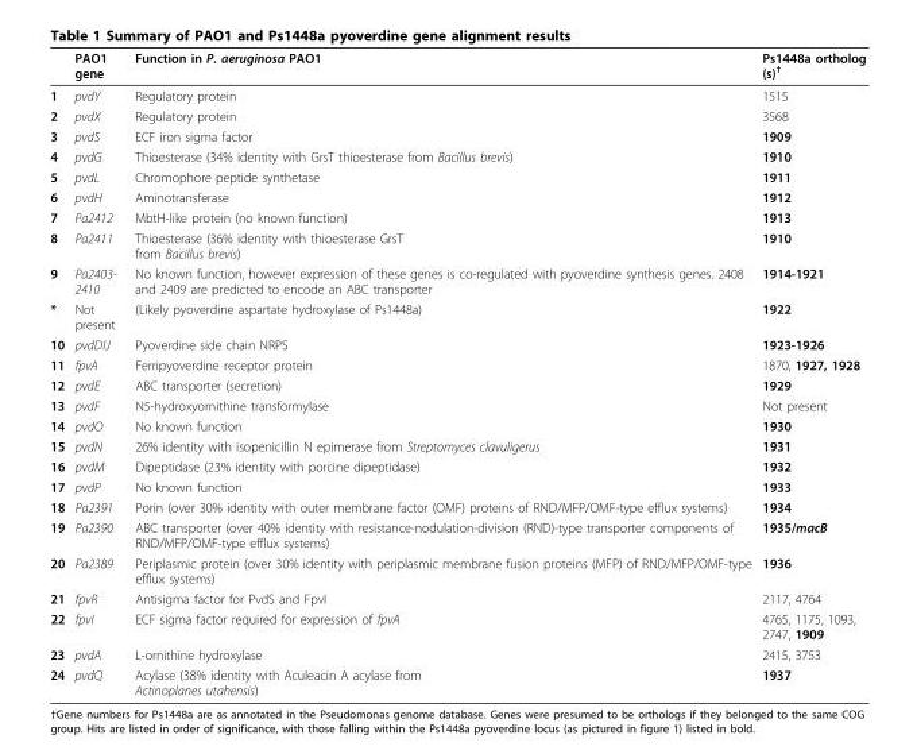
<table><thead><tr><td></td><td>PAO1 gene</td><td>Function in P. aeruginosa PAO1</td><td>Ps1448a ortholog (s)<sup>†</sup></td></tr></thead><tbody><tr><td>1</td><td>pvdY</td><td>Regulatory protein</td><td>1515</td></tr><tr><td>2</td><td>pvdX</td><td>Regulatory protein</td><td>3568</td></tr><tr><td>3</td><td>pvdS</td><td>ECF iron sigma factor</td><td>1909</td></tr><tr><td>4</td><td>pvdG</td><td>Thioesterase (34% identity with GrsT thioesterase from Bacillus brevis)</td><td>1910</td></tr><tr><td>5</td><td>pvdL</td><td>Chromophore peptide synthetase</td><td>1911</td></tr><tr><td>6</td><td>pvdH</td><td>Aminotransferase</td><td>1912</td></tr><tr><td>7</td><td>Pa2412</td><td>MbtH-like protein (no known function)</td><td>1913</td></tr><tr><td>8</td><td>Pa2411</td><td>Thioesterase (36% identity with thioesterase GrsT from Bacillus brevis)</td><td>1910</td></tr><tr><td>9</td><td>Pa2403- 2410</td><td>No known function, however expression of these genes is co-regulated with pyoverdine synthesis genes. 2408 and 2409 are predicted to encode an ABC transporter</td><td>1914-1921</td></tr><tr><td>*</td><td>Not present</td><td>(Likely pyoverdine aspartate hydroxylase of Ps1448a)</td><td>1922</td></tr><tr><td>10</td><td>pvdDIJ</td><td>Pyoverdine side chain NRPS</td><td>1923-1926</td></tr><tr><td>11</td><td>fpvA</td><td>Ferripyoverdine receptor protein</td><td>1870, 1927, 1928</td></tr><tr><td>12</td><td>pvdE</td><td>ABC transporter (secretion)</td><td>1929</td></tr><tr><td>13</td><td>pvdF</td><td>N5-hydroxyornithine transformylase</td><td>Not present</td></tr><tr><td>14</td><td>pvdO</td><td>No known function</td><td>1930</td></tr><tr><td>15</td><td>pvdN</td><td>26% identity with isopenicillin N epimerase from Streptomyces clavuligerus</td><td>1931</td></tr><tr><td>16</td><td>pvdM</td><td>Dipeptidase (23% identity with porcine dipeptidase)</td><td>1932</td></tr><tr><td>17</td><td>pvdP</td><td>No known function</td><td>1933</td></tr><tr><td>18</td><td>Pa2391</td><td>Porin (over 30% identity with outer membrane factor (OMF) proteins of RND/MFP/OMF-type efflux systems)</td><td>1934</td></tr><tr><td>19</td><td>Pa2390</td><td>ABC transporter (over 40% identity with resistance-nodulation-division (RND)-type transporter components of RND/MFP/OMF-type efflux systems)</td><td>1935/macB</td></tr><tr><td>20</td><td>Pa2389</td><td>Periplasmic protein (over 30% identity with periplasmic membrane fusion proteins (MFP) of RND/MFP/OMF-type efflux systems)</td><td>1936</td></tr><tr><td>21</td><td>fpvR</td><td>Antisigma factor for PvdS and FpvI</td><td>2117, 4764</td></tr><tr><td>22</td><td>fpvI</td><td>ECF sigma factor required for expression of fpvA</td><td>4765, 1175, 1093, 2747, 1909</td></tr><tr><td>23</td><td>pvdA</td><td>L-ornithine hydroxylase</td><td>2415, 3753</td></tr><tr><td>24</td><td>pvdQ</td><td>Acylase (38% identity with Aculeacin A acylase from Actinoplanes utahensis)</td><td>1937</td></tr></tbody></table>